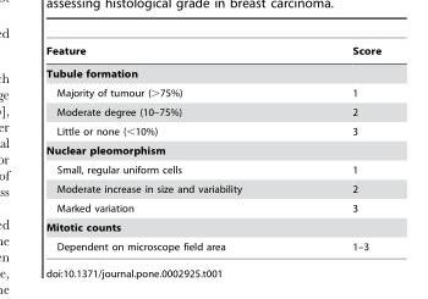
<table><thead><tr><td>Feature</td><td>Score</td></tr></thead><tbody><tr><td colspan="2">Tubule formation</td></tr><tr><td>Majority of tumour (&gt;75%)</td><td>1</td></tr><tr><td>Moderate degree (10–75%)</td><td>2</td></tr><tr><td>Little or none (&lt;10%)</td><td>3</td></tr><tr><td colspan="2">Nuclear pleomorphism</td></tr><tr><td>Small, regular uniform cells</td><td>1</td></tr><tr><td>Moderate increase in size and variability</td><td>2</td></tr><tr><td>Marked variation</td><td>3</td></tr><tr><td colspan="2">Mitotic counts</td></tr><tr><td>Dependent on microscope field area</td><td>1–3</td></tr></tbody></table>